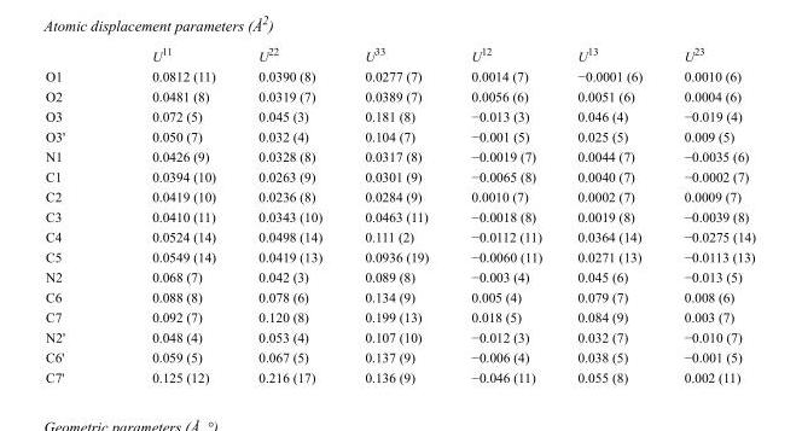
<table><thead><tr><td></td><td>U<sup>11</sup></td><td>U<sup>22</sup></td><td>U<sup>33</sup></td><td>U<sup>12</sup></td><td>U<sup>13</sup></td><td>U<sup>23</sup></td></tr></thead><tbody><tr><td>O1</td><td>0.0812 (11)</td><td>0.0390 (8)</td><td>0.0277 (7)</td><td>0.0014 (7)</td><td>−0.0001 (6)</td><td>0.0010 (6)</td></tr><tr><td>O2</td><td>0.0481 (8)</td><td>0.0319 (7)</td><td>0.0389 (7)</td><td>0.0056 (6)</td><td>0.0051 (6)</td><td>0.0004 (6)</td></tr><tr><td>O3</td><td>0.072 (5)</td><td>0.045 (3)</td><td>0.181 (8)</td><td>−0.013 (3)</td><td>0.046 (4)</td><td>−0.019 (4)</td></tr><tr><td>O3&#x27;</td><td>0.050 (7)</td><td>0.032 (4)</td><td>0.104 (7)</td><td>−0.001 (5)</td><td>0.025 (5)</td><td>0.009 (5)</td></tr><tr><td>N1</td><td>0.0426 (9)</td><td>0.0328 (8)</td><td>0.0317 (8)</td><td>−0.0019 (7)</td><td>0.0044 (7)</td><td>−0.0035 (6)</td></tr><tr><td>C1</td><td>0.0394 (10)</td><td>0.0263 (9)</td><td>0.0301 (9)</td><td>−0.0065 (8)</td><td>0.0040 (7)</td><td>−0.0002 (7)</td></tr><tr><td>C2</td><td>0.0419 (10)</td><td>0.0236 (8)</td><td>0.0284 (9)</td><td>0.0010 (7)</td><td>0.0002 (7)</td><td>0.0009 (7)</td></tr><tr><td>C3</td><td>0.0410 (11)</td><td>0.0343 (10)</td><td>0.0463 (11)</td><td>−0.0018 (8)</td><td>0.0019 (8)</td><td>−0.0039 (8)</td></tr><tr><td>C4</td><td>0.0524 (14)</td><td>0.0498 (14)</td><td>0.111 (2)</td><td>−0.0112 (11)</td><td>0.0364 (14)</td><td>−0.0275 (14)</td></tr><tr><td>C5</td><td>0.0549 (14)</td><td>0.0419 (13)</td><td>0.0936 (19)</td><td>−0.0060 (11)</td><td>0.0271 (13)</td><td>−0.0113 (13)</td></tr><tr><td>N2</td><td>0.068 (7)</td><td>0.042 (3)</td><td>0.089 (8)</td><td>−0.003 (4)</td><td>0.045 (6)</td><td>−0.013 (5)</td></tr><tr><td>C6</td><td>0.088 (8)</td><td>0.078 (6)</td><td>0.134 (9)</td><td>0.005 (4)</td><td>0.079 (7)</td><td>0.008 (6)</td></tr><tr><td>C7</td><td>0.092 (7)</td><td>0.120 (8)</td><td>0.199 (13)</td><td>0.018 (5)</td><td>0.084 (9)</td><td>0.003 (7)</td></tr><tr><td>N2&#x27;</td><td>0.048 (4)</td><td>0.053 (4)</td><td>0.107 (10)</td><td>−0.012 (3)</td><td>0.032 (7)</td><td>−0.010 (7)</td></tr><tr><td>C6&#x27;</td><td>0.059 (5)</td><td>0.067 (5)</td><td>0.137 (9)</td><td>−0.006 (4)</td><td>0.038 (5)</td><td>−0.001 (5)</td></tr><tr><td>C7&#x27;</td><td>0.125 (12)</td><td>0.216 (17)</td><td>0.136 (9)</td><td>−0.046 (11)</td><td>0.055 (8)</td><td>0.002 (11)</td></tr></tbody></table>